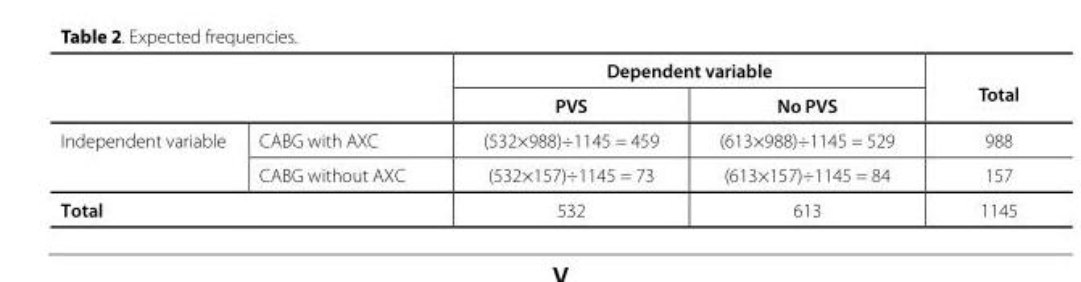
<table><thead><tr><td rowspan="2"></td><td rowspan="2"></td><td colspan="2">Dependent variable</td><td rowspan="2">Total</td></tr><tr><td>PVS</td><td>No PVS</td></tr></thead><tbody><tr><td rowspan="2">Independent variable</td><td>CABG with AXC</td><td>(532×988)÷1145 = 459</td><td>(613×988)÷1145 = 529</td><td>988</td></tr><tr><td>CABG without AXC</td><td>(532×157)÷1145 = 73</td><td>(613×157)÷1145 = 84</td><td>157</td></tr><tr><td colspan="2">Total</td><td>532</td><td>613</td><td>1145</td></tr></tbody></table>